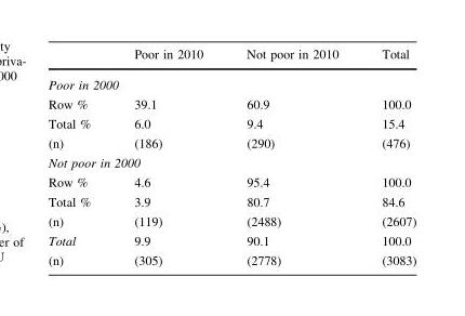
<table><thead><tr><td></td><td>Poor in 2010</td><td>Not poor in 2010</td><td>Total</td></tr></thead><tbody><tr><td colspan="4">Poor in 2000</td></tr><tr><td>Row %</td><td>39.1</td><td>60.9</td><td>100.0</td></tr><tr><td>Total %</td><td>6.0</td><td>9.4</td><td>15.4</td></tr><tr><td>(n)</td><td>(186)</td><td>(290)</td><td>(476)</td></tr><tr><td colspan="4">Not poor in 2000</td></tr><tr><td>Row %</td><td>4.6</td><td>95.4</td><td>100.0</td></tr><tr><td>Total %</td><td>3.9</td><td>80.7</td><td>84.6</td></tr><tr><td>(n)</td><td>(119)</td><td>(2488)</td><td>(2607)</td></tr><tr><td>Total</td><td>9.9</td><td>90.1</td><td>100.0</td></tr><tr><td>(n)</td><td>(305)</td><td>(2778)</td><td>(3083)</td></tr></tbody></table>